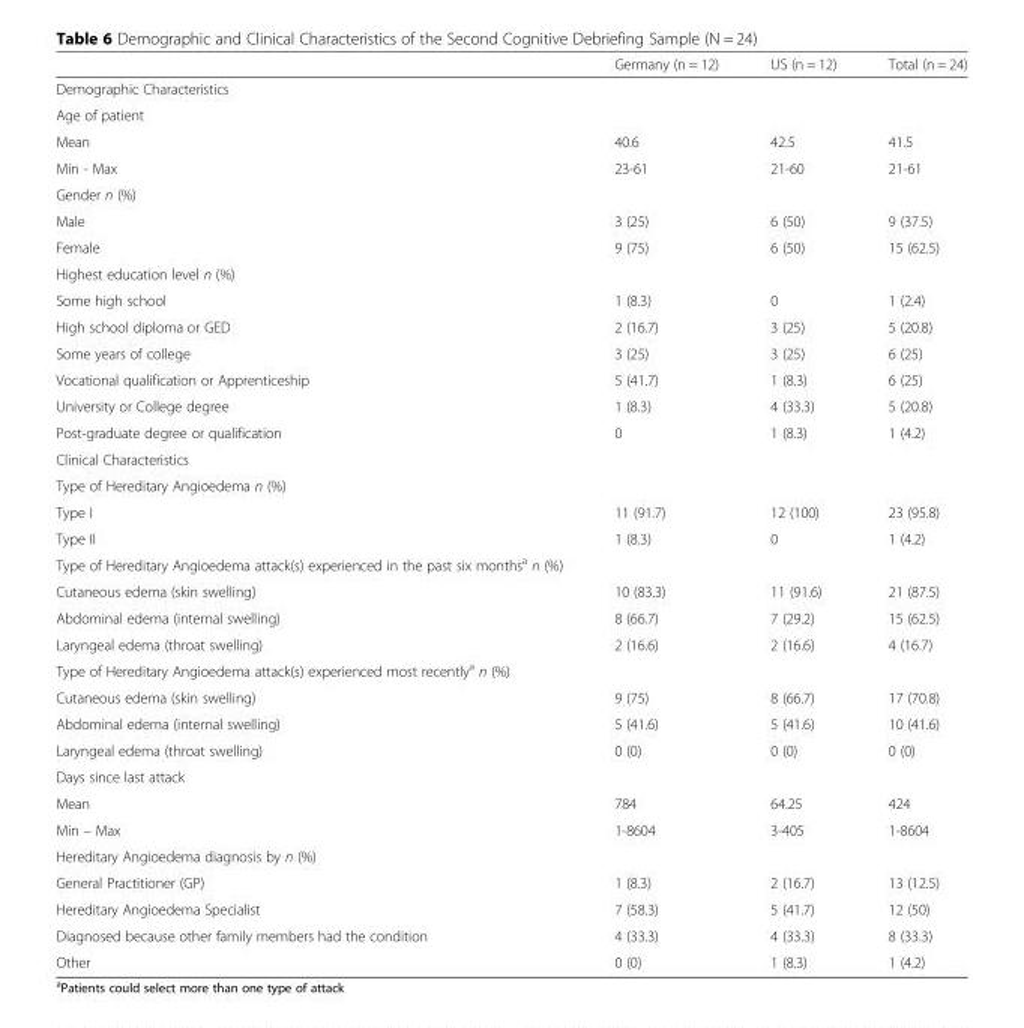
<table><thead><tr><td></td><td>Germany (n = 12)</td><td>US (n = 12)</td><td>Total (n = 24)</td></tr></thead><tbody><tr><td colspan="4">Demographic Characteristics</td></tr><tr><td colspan="4">Age of patient</td></tr><tr><td>Mean</td><td>40.6</td><td>42.5</td><td>41.5</td></tr><tr><td>Min - Max</td><td>23-61</td><td>21-60</td><td>21-61</td></tr><tr><td colspan="4">Gender n (%)</td></tr><tr><td>Male</td><td>3 (25)</td><td>6 (50)</td><td>9 (37.5)</td></tr><tr><td>Female</td><td>9 (75)</td><td>6 (50)</td><td>15 (62.5)</td></tr><tr><td colspan="4">Highest education level n (%)</td></tr><tr><td>Some high school</td><td>1 (8.3)</td><td>0</td><td>1 (2.4)</td></tr><tr><td>High school diploma or GED</td><td>2 (16.7)</td><td>3 (25)</td><td>5 (20.8)</td></tr><tr><td>Some years of college</td><td>3 (25)</td><td>3 (25)</td><td>6 (25)</td></tr><tr><td>Vocational qualification or Apprenticeship</td><td>5 (41.7)</td><td>1 (8.3)</td><td>6 (25)</td></tr><tr><td>University or College degree</td><td>1 (8.3)</td><td>4 (33.3)</td><td>5 (20.8)</td></tr><tr><td>Post-graduate degree or qualification</td><td>0</td><td>1 (8.3)</td><td>1 (4.2)</td></tr><tr><td colspan="4">Clinical Characteristics</td></tr><tr><td colspan="4">Type of Hereditary Angioedema n (%)</td></tr><tr><td>Type I</td><td>11 (91.7)</td><td>12 (100)</td><td>23 (95.8)</td></tr><tr><td>Type II</td><td>1 (8.3)</td><td>0</td><td>1 (4.2)</td></tr><tr><td colspan="4">Type of Hereditary Angioedema attack(s) experienced in the past six months<sup>a</sup> n (%)</td></tr><tr><td>Cutaneous edema (skin swelling)</td><td>10 (83.3)</td><td>11 (91.6)</td><td>21 (87.5)</td></tr><tr><td>Abdominal edema (internal swelling)</td><td>8 (66.7)</td><td>7 (29.2)</td><td>15 (62.5)</td></tr><tr><td>Laryngeal edema (throat swelling)</td><td>2 (16.6)</td><td>2 (16.6)</td><td>4 (16.7)</td></tr><tr><td colspan="4">Type of Hereditary Angioedema attack(s) experienced most recently<sup>a</sup> n (%)</td></tr><tr><td>Cutaneous edema (skin swelling)</td><td>9 (75)</td><td>8 (66.7)</td><td>17 (70.8)</td></tr><tr><td>Abdominal edema (internal swelling)</td><td>5 (41.6)</td><td>5 (41.6)</td><td>10 (41.6)</td></tr><tr><td>Laryngeal edema (throat swelling)</td><td>0 (0)</td><td>0 (0)</td><td>0 (0)</td></tr><tr><td colspan="4">Days since last attack</td></tr><tr><td>Mean</td><td>784</td><td>64.25</td><td>424</td></tr><tr><td>Min – Max</td><td>1-8604</td><td>3-405</td><td>1-8604</td></tr><tr><td colspan="4">Hereditary Angioedema diagnosis by n (%)</td></tr><tr><td>General Practitioner (GP)</td><td>1 (8.3)</td><td>2 (16.7)</td><td>13 (12.5)</td></tr><tr><td>Hereditary Angioedema Specialist</td><td>7 (58.3)</td><td>5 (41.7)</td><td>12 (50)</td></tr><tr><td>Diagnosed because other family members had the condition</td><td>4 (33.3)</td><td>4 (33.3)</td><td>8 (33.3)</td></tr><tr><td>Other</td><td>0 (0)</td><td>1 (8.3)</td><td>1 (4.2)</td></tr></tbody></table>